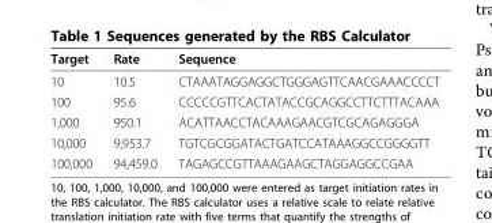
<table><thead><tr><td>Target</td><td>Rate</td><td>Sequence</td></tr></thead><tbody><tr><td>10</td><td>10.5</td><td>CTAAATAGGAGGCTGGGAGTTCAACGAAACCCCT</td></tr><tr><td>100</td><td>95.6</td><td>CCCCCGTTCACTATACCGCAGGCCTTCTTTACAAA</td></tr><tr><td>1,000</td><td>950.1</td><td>ACATTAACCTACAAAGAACGTCGCAGAGGGA</td></tr><tr><td>10,000</td><td>9,953.7</td><td>TGTCGCGGATACTGATCCATAAAGGCCGGGGTT</td></tr><tr><td>100,000</td><td>94,459.0</td><td>TAGAGCCGTTAAAGAAGCTAGGAGGCCGAA</td></tr></tbody></table>